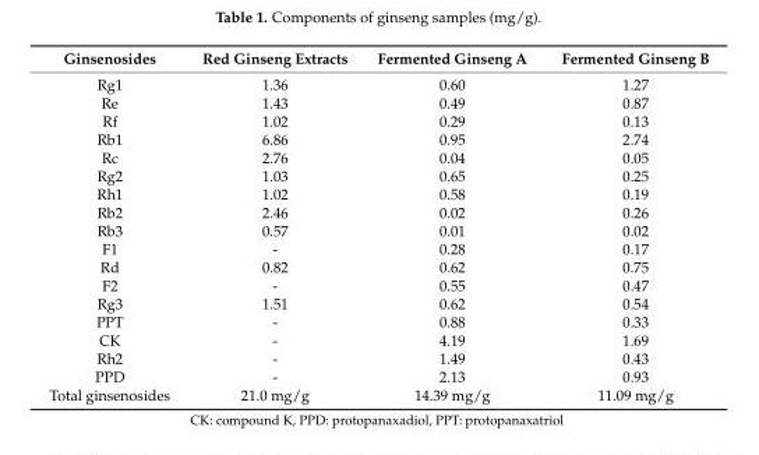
<table><thead><tr><td>Ginsenosides</td><td>Red Ginseng Extracts</td><td>Fermented Ginseng A</td><td>Fermented Ginseng B</td></tr></thead><tbody><tr><td>Rg1</td><td>1.36</td><td>0.60</td><td>1.27</td></tr><tr><td>Re</td><td>1.43</td><td>0.49</td><td>0.87</td></tr><tr><td>Rf</td><td>1.02</td><td>0.29</td><td>0.13</td></tr><tr><td>Rb1</td><td>6.86</td><td>0.95</td><td>2.74</td></tr><tr><td>Rc</td><td>2.76</td><td>0.04</td><td>0.05</td></tr><tr><td>Rg2</td><td>1.03</td><td>0.65</td><td>0.25</td></tr><tr><td>Rh1</td><td>1.02</td><td>0.58</td><td>0.19</td></tr><tr><td>Rb2</td><td>2.46</td><td>0.02</td><td>0.26</td></tr><tr><td>Rb3</td><td>0.57</td><td>0.01</td><td>0.02</td></tr><tr><td>F1</td><td>-</td><td>0.28</td><td>0.17</td></tr><tr><td>Rd</td><td>0.82</td><td>0.62</td><td>0.75</td></tr><tr><td>F2</td><td>-</td><td>0.55</td><td>0.47</td></tr><tr><td>Rg3</td><td>1.51</td><td>0.62</td><td>0.54</td></tr><tr><td>PPT</td><td>-</td><td>0.88</td><td>0.33</td></tr><tr><td>CK</td><td>-</td><td>4.19</td><td>1.69</td></tr><tr><td>Rh2</td><td>-</td><td>1.49</td><td>0.43</td></tr><tr><td>PPD</td><td>-</td><td>2.13</td><td>0.93</td></tr><tr><td>Total ginsenosides</td><td>21.0 mg/g</td><td>14.39 mg/g</td><td>11.09 mg/g</td></tr></tbody></table>